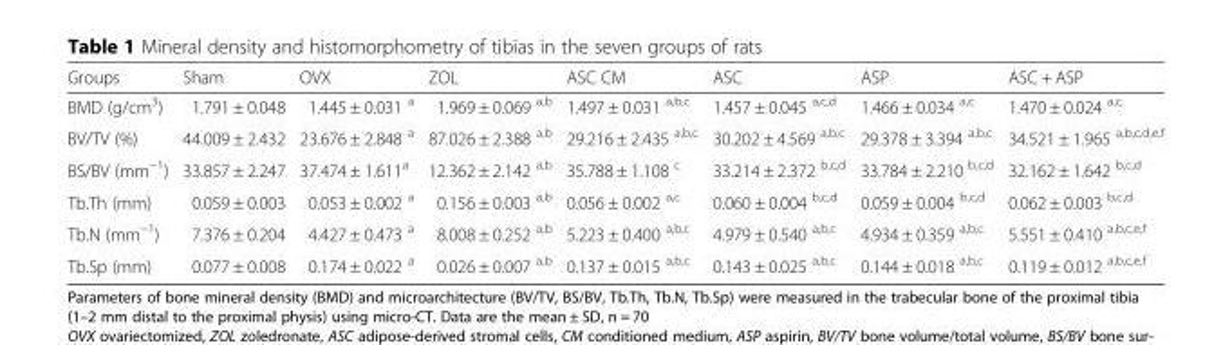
<table><thead><tr><td>Groups</td><td>Sham</td><td>OVX</td><td>ZOL</td><td>ASC CM</td><td>ASC</td><td>ASP</td><td>ASC + ASP</td></tr></thead><tbody><tr><td>BMD (g/cm<sup>3</sup>)</td><td>1.791 ± 0.048</td><td>1.445 ± 0.031 <sup>a</sup></td><td>1.969 ± 0.069 <sup>a,b</sup></td><td>1.497 ± 0.031 <sup>a,b,c</sup></td><td>1.457 ± 0.045 <sup>a,c,d</sup></td><td>1.466 ± 0.034 <sup>a,c</sup></td><td>1.470 ± 0.024 <sup>a,c</sup></td></tr><tr><td>BV/TV (%)</td><td>44.009 ± 2.432</td><td>23.676 ± 2.848 <sup>a</sup></td><td>87.026 ± 2.388 <sup>a,b</sup></td><td>29.216 ± 2.435 <sup>a,b,c</sup></td><td>30.202 ± 4.569 <sup>a,b,c</sup></td><td>29.378 ± 3.394 <sup>a,b,c</sup></td><td>34.521 ± 1.965 <sup>a,b,c,d,e,f</sup></td></tr><tr><td>BS/BV (mm<sup>−1</sup>)</td><td>33.857 ± 2.247</td><td>37.474 ± 1.611<sup>a</sup></td><td>12.362 ± 2.142 <sup>a,b</sup></td><td>35.788 ± 1.108 <sup>c</sup></td><td>33.214 ± 2.372 <sup>b,c,d</sup></td><td>33.784 ± 2.210 <sup>b,c,d</sup></td><td>32.162 ± 1.642 <sup>b,c,d</sup></td></tr><tr><td>Tb.Th (mm)</td><td>0.059 ± 0.003</td><td>0.053 ± 0.002 <sup>a</sup></td><td>0.156 ± 0.003 <sup>a,b</sup></td><td>0.056 ± 0.002 <sup>a,c</sup></td><td>0.060 ± 0.004 <sup>b,c,d</sup></td><td>0.059 ± 0.004 <sup>b,c,d</sup></td><td>0.062 ± 0.003 <sup>b,c,d</sup></td></tr><tr><td>Tb.N (mm<sup>−1</sup>)</td><td>7.376 ± 0.204</td><td>4.427 ± 0.473 <sup>a</sup></td><td>8.008 ± 0.252 <sup>a,b</sup></td><td>5.223 ± 0.400 <sup>a,b,c</sup></td><td>4.979 ± 0.540 <sup>a,b,c</sup></td><td>4.934 ± 0.359 <sup>a,b,c</sup></td><td>5.551 ± 0.410 <sup>a,b,c,e,f</sup></td></tr><tr><td>Tb.Sp (mm)</td><td>0.077 ± 0.008</td><td>0.174 ± 0.022 <sup>a</sup></td><td>0.026 ± 0.007 <sup>a,b</sup></td><td>0.137 ± 0.015 <sup>a,b,c</sup></td><td>0.143 ± 0.025 <sup>a,b,c</sup></td><td>0.144 ± 0.018 <sup>a,b,c</sup></td><td>0.119 ± 0.012 <sup>a,b,c,e,f</sup></td></tr></tbody></table>